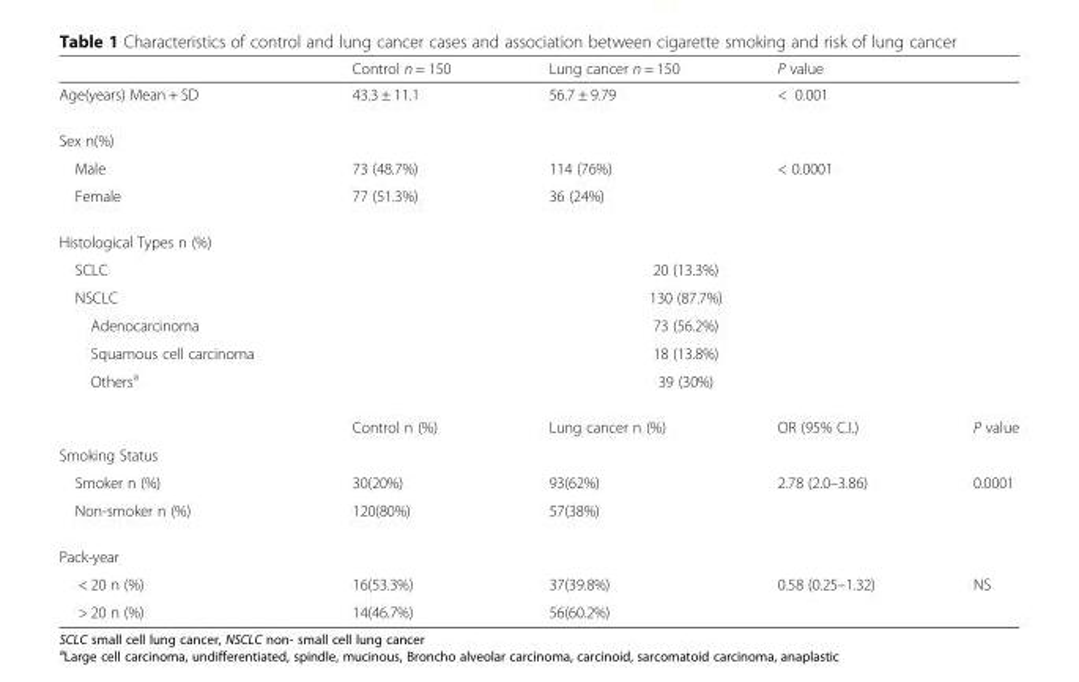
<table><thead><tr><td></td><td>Control n = 150</td><td>Lung cancer n = 150</td><td colspan="2">P value</td></tr></thead><tbody><tr><td>Age(years) Mean + SD</td><td>43.3 ± 11.1</td><td>56.7 ± 9.79</td><td colspan="2">&lt; 0.001</td></tr><tr><td colspan="5">Sex n(%)</td></tr><tr><td>Male</td><td>73 (48.7%)</td><td>114 (76%)</td><td colspan="2">&lt; 0.0001</td></tr><tr><td>Female</td><td>77 (51.3%)</td><td>36 (24%)</td><td colspan="2"></td></tr><tr><td colspan="5">Histological Types n (%)</td></tr><tr><td>SCLC</td><td colspan="4">20 (13.3%)</td></tr><tr><td>NSCLC</td><td colspan="4">130 (87.7%)</td></tr><tr><td>Adenocarcinoma</td><td colspan="4">73 (56.2%)</td></tr><tr><td>Squamous cell carcinoma</td><td colspan="4">18 (13.8%)</td></tr><tr><td rowspan="2">Others<sup>a</sup></td><td colspan="4">39 (30%)</td></tr><tr><td>Control n (%)</td><td>Lung cancer n (%)</td><td>OR (95% C.I.)</td><td>P value</td></tr><tr><td colspan="5">Smoking Status</td></tr><tr><td>Smoker n (%)</td><td>30(20%)</td><td>93(62%)</td><td>2.78 (2.0–3.86)</td><td>0.0001</td></tr><tr><td>Non-smoker n (%)</td><td>120(80%)</td><td>57(38%)</td><td></td><td></td></tr><tr><td colspan="5">Pack-year</td></tr><tr><td>&lt; 20 n (%)</td><td>16(53.3%)</td><td>37(39.8%)</td><td>0.58 (0.25–1.32)</td><td>NS</td></tr><tr><td>&gt; 20 n (%)</td><td>14(46.7%)</td><td>56(60.2%)</td><td></td><td></td></tr></tbody></table>